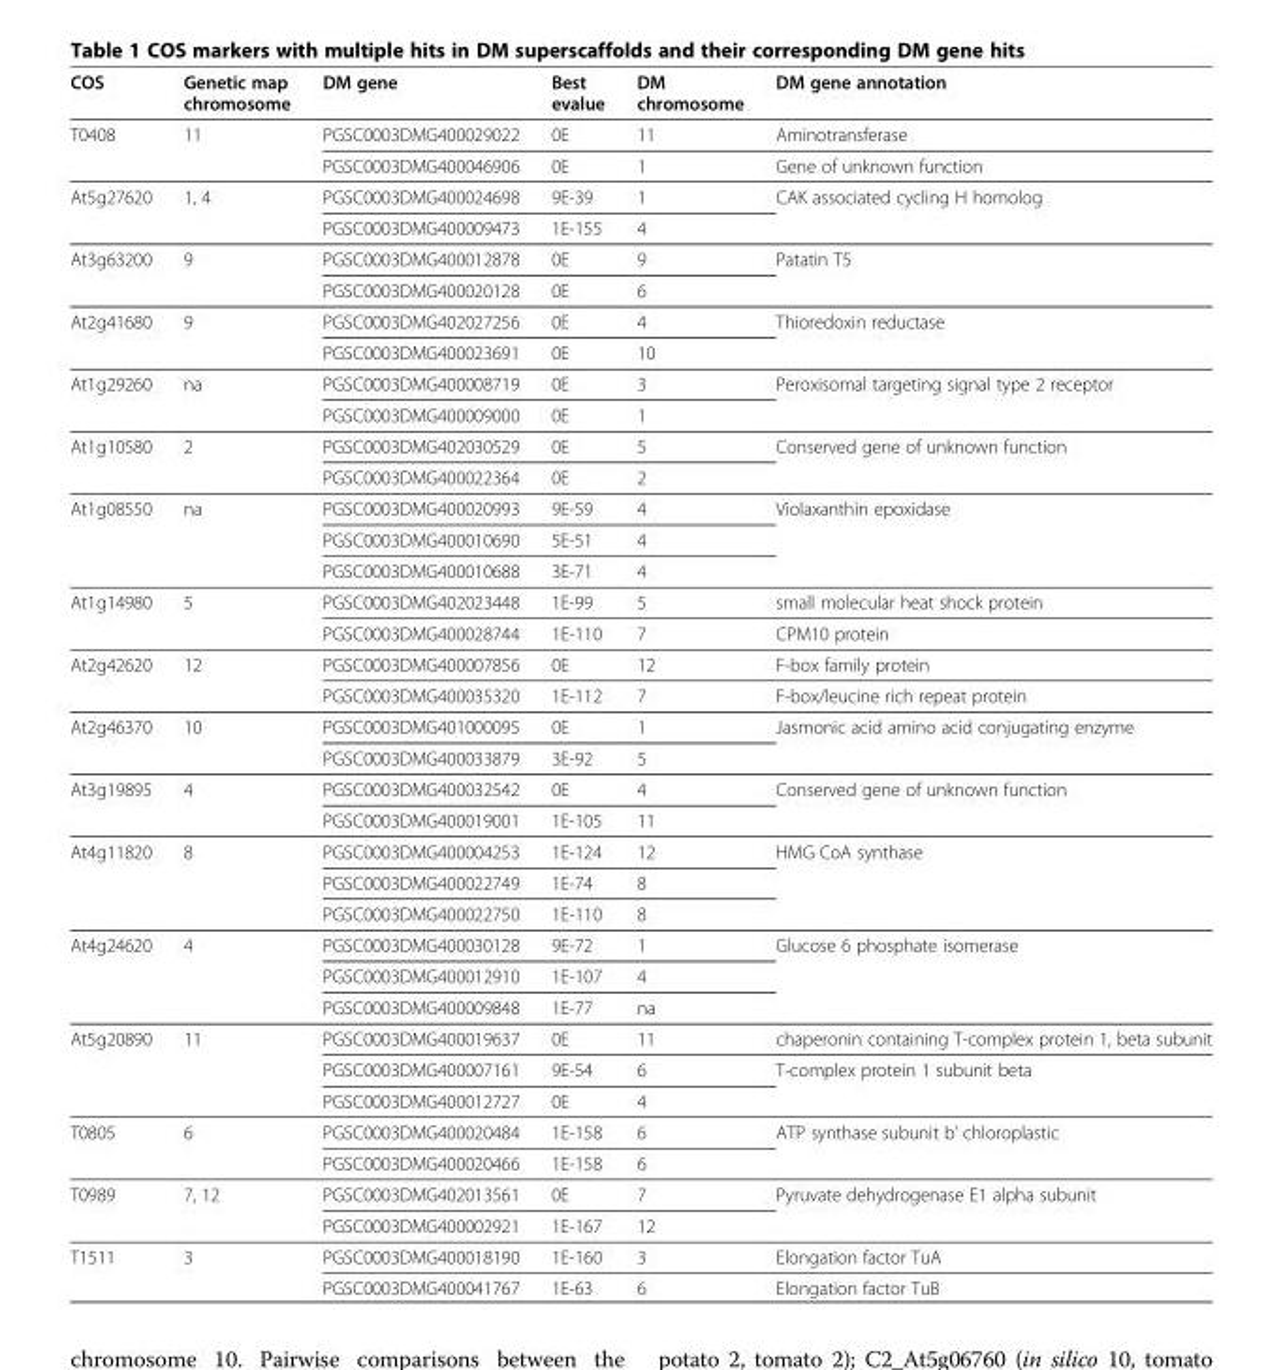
<table><thead><tr><td>COS</td><td>Genetic map chromosome</td><td>DM gene</td><td>Best evalue</td><td>DM chromosome</td><td>DM gene annotation</td></tr></thead><tbody><tr><td rowspan="2">T0408</td><td rowspan="2">11</td><td>PGSC0003DMG400029022</td><td>0E</td><td>11</td><td>Aminotransferase</td></tr><tr><td>PGSC0003DMG400046906</td><td>0E</td><td>1</td><td>Gene of unknown function</td></tr><tr><td rowspan="2">At5g27620</td><td rowspan="2">1, 4</td><td>PGSC0003DMG400024698</td><td>9E-39</td><td>1</td><td rowspan="2">CAK associated cycling H homolog</td></tr><tr><td>PGSC0003DMG400009473</td><td>1E-155</td><td>4</td></tr><tr><td rowspan="2">At3g63200</td><td rowspan="2">9</td><td>PGSC0003DMG400012878</td><td>0E</td><td>9</td><td rowspan="2">Patatin T5</td></tr><tr><td>PGSC0003DMG400020128</td><td>0E</td><td>6</td></tr><tr><td rowspan="2">At2g41680</td><td>9</td><td>PGSC0003DMG402027256</td><td>0E</td><td>4</td><td>Thioredoxin reductase</td></tr><tr><td></td><td>PGSC0003DMG400023691</td><td>0E</td><td>10</td><td></td></tr><tr><td rowspan="2">At1g29260</td><td>na</td><td>PGSC0003DMG400008719</td><td>0E</td><td>3</td><td>Peroxisomal targeting signal type 2 receptor</td></tr><tr><td></td><td>PGSC0003DMG400009000</td><td>0E</td><td>1</td><td></td></tr><tr><td rowspan="2">At1g10580</td><td rowspan="2">2</td><td>PGSC0003DMG402030529</td><td>0E</td><td>5</td><td rowspan="2">Conserved gene of unknown function</td></tr><tr><td>PGSC0003DMG400022364</td><td>0E</td><td>2</td></tr><tr><td rowspan="3">At1g08550</td><td rowspan="3">na</td><td>PGSC0003DMG400020993</td><td>9E-59</td><td>4</td><td rowspan="3">Violaxanthin epoxidase</td></tr><tr><td>PGSC0003DMG400010690</td><td>5E-51</td><td>4</td></tr><tr><td>PGSC0003DMG400010688</td><td>3E-71</td><td>4</td></tr><tr><td rowspan="2">At1g14980</td><td rowspan="2">5</td><td>PGSC0003DMG402023448</td><td>1E-99</td><td>5</td><td>small molecular heat shock protein</td></tr><tr><td>PGSC0003DMG400028744</td><td>1E-110</td><td>7</td><td>CPM10 protein</td></tr><tr><td rowspan="2">At2g42620</td><td rowspan="2">12</td><td>PGSC0003DMG400007856</td><td>0E</td><td>12</td><td>F-box family protein</td></tr><tr><td>PGSC0003DMG400035320</td><td>1E-112</td><td>7</td><td>F-box/leucine rich repeat protein</td></tr><tr><td rowspan="2">At2g46370</td><td rowspan="2">10</td><td>PGSC0003DMG401000095</td><td>0E</td><td>1</td><td rowspan="2">Jasmonic acid amino acid conjugating enzyme</td></tr><tr><td>PGSC0003DMG400033879</td><td>3E-92</td><td>5</td></tr><tr><td rowspan="2">At3g19895</td><td rowspan="2">4</td><td>PGSC0003DMG400032542</td><td>0E</td><td>4</td><td rowspan="2">Conserved gene of unknown function</td></tr><tr><td>PGSC0003DMG400019001</td><td>1E-105</td><td>11</td></tr><tr><td rowspan="3">At4g11820</td><td>8</td><td>PGSC0003DMG400004253</td><td>1E-124</td><td>12</td><td>HMG CoA synthase</td></tr><tr><td></td><td>PGSC0003DMG400022749</td><td>1E-74</td><td>8</td><td></td></tr><tr><td></td><td>PGSC0003DMG400022750</td><td>1E-110</td><td>8</td><td></td></tr><tr><td rowspan="3">At4g24620</td><td>4</td><td>PGSC0003DMG400030128</td><td>9E-72</td><td>1</td><td>Glucose 6 phosphate isomerase</td></tr><tr><td></td><td>PGSC0003DMG400012910</td><td>1E-107</td><td>4</td><td></td></tr><tr><td></td><td>PGSC0003DMG400009848</td><td>1E-77</td><td>na</td><td></td></tr><tr><td rowspan="3">At5g20890</td><td rowspan="3">11</td><td>PGSC0003DMG400019637</td><td>0E</td><td>11</td><td>chaperonin containing T-complex protein 1, beta subunit</td></tr><tr><td>PGSC0003DMG400007161</td><td>9E-54</td><td>6</td><td rowspan="2">T-complex protein 1 subunit beta</td></tr><tr><td>PGSC0003DMG400012727</td><td>0E</td><td>4</td></tr><tr><td rowspan="2">T0805</td><td>6</td><td>PGSC0003DMG400020484</td><td>1E-158</td><td>6</td><td>ATP synthase subunit b’ chloroplastic</td></tr><tr><td></td><td>PGSC0003DMG400020466</td><td>1E-158</td><td>6</td><td></td></tr><tr><td rowspan="2">T0989</td><td>7, 12</td><td>PGSC0003DMG402013561</td><td>0E</td><td>7</td><td>Pyruvate dehydrogenase E1 alpha subunit</td></tr><tr><td></td><td>PGSC0003DMG400002921</td><td>1E-167</td><td>12</td><td></td></tr><tr><td rowspan="2">T1511</td><td rowspan="2">3</td><td>PGSC0003DMG400018190</td><td>1E-160</td><td>3</td><td>Elongation factor TuA</td></tr><tr><td>PGSC0003DMG400041767</td><td>1E-63</td><td>6</td><td>Elongation factor TuB</td></tr></tbody></table>